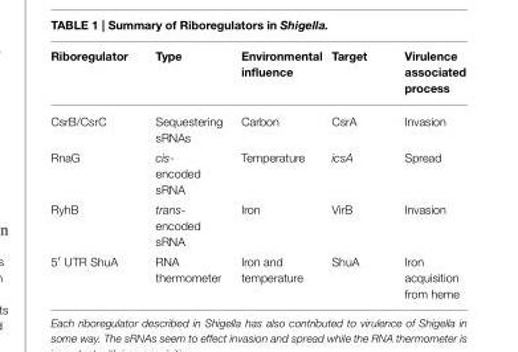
<table><thead><tr><td>Riboregulator</td><td>Type</td><td>Environmental influence</td><td>Target</td><td>Virulence associated process</td></tr></thead><tbody><tr><td>CsrB/CsrC</td><td>Sequestering sRNAs</td><td>Carbon</td><td>CsrA</td><td>Invasion</td></tr><tr><td>RnaG</td><td>cis- encoded sRNA</td><td>Temperature</td><td>icsA</td><td>Spread</td></tr><tr><td>RyhB</td><td>trans- encoded sRNA</td><td>Iron</td><td>VirB</td><td>Invasion</td></tr><tr><td>5′ UTR ShuA</td><td>RNA thermometer</td><td>Iron and temperature</td><td>ShuA</td><td>Iron acquisition from heme</td></tr></tbody></table>